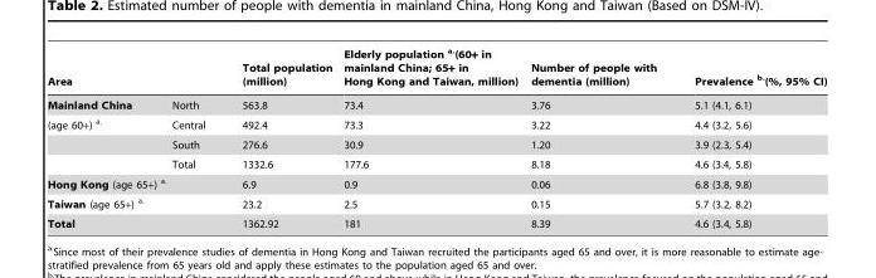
<table><thead><tr><td colspan="2">Area</td><td rowspan="2">Total population (million) 563.8</td><td rowspan="2">Elderly population a.(60+ in mainland China; 65+ in Hong Kong and Taiwan, million) 73.4</td><td rowspan="2">Number of people with dementia (million) 3.76</td><td rowspan="2">Prevalence b.(%, 95% CI) 5.1 (4.1, 6.1)</td></tr><tr><td>Mainland China</td><td>North</td></tr></thead><tbody><tr><td rowspan="3">(age 60+) a.</td><td>Central</td><td>492.4</td><td>73.3</td><td>3.22</td><td>4.4 (3.2, 5.6)</td></tr><tr><td>South</td><td>276.6</td><td>30.9</td><td>1.20</td><td>3.9 (2.3, 5.4)</td></tr><tr><td>Total</td><td>1332.6</td><td>177.6</td><td>8.18</td><td>4.6 (3.4, 5.8)</td></tr><tr><td>Hong Kong (age 65+) a.</td><td></td><td>6.9</td><td>0.9</td><td>0.06</td><td>6.8 (3.8, 9.8)</td></tr><tr><td>Taiwan (age 65+) a.</td><td></td><td>23.2</td><td>2.5</td><td>0.15</td><td>5.7 (3.2, 8.2)</td></tr><tr><td>Total</td><td></td><td>1362.92</td><td>181</td><td>8.39</td><td>4.6 (3.4, 5.8)</td></tr></tbody></table>